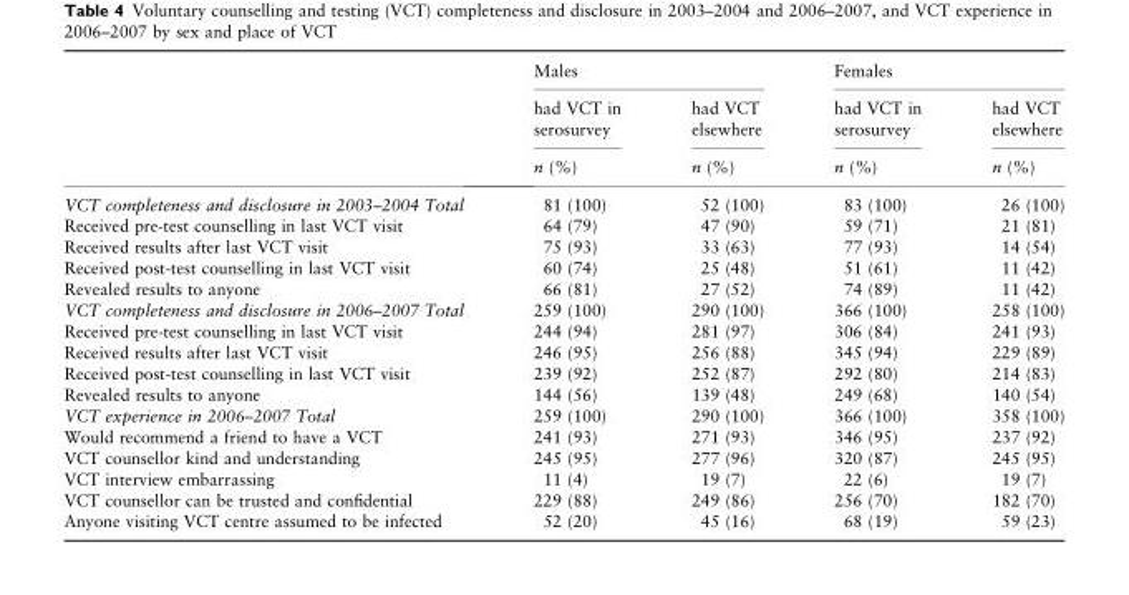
<table><thead><tr><td rowspan="3"></td><td colspan="2">Males</td><td colspan="2">Females</td></tr><tr><td rowspan="2">had VCT in serosurvey n (%)</td><td rowspan="2">had VCT elsewhere n (%)</td><td rowspan="2">had VCT in serosurvey n (%)</td><td rowspan="2">had VCT elsewhere n (%)</td></tr><tr></tr></thead><tbody><tr><td>VCT completeness and disclosure in 2003–2004 Total</td><td>81 (100)</td><td>52 (100)</td><td>83 (100)</td><td>26 (100)</td></tr><tr><td>Received pre-test counselling in last VCT visit</td><td>64 (79)</td><td>47 (90)</td><td>59 (71)</td><td>21 (81)</td></tr><tr><td>Received results after last VCT visit</td><td>75 (93)</td><td>33 (63)</td><td>77 (93)</td><td>14 (54)</td></tr><tr><td>Received post-test counselling in last VCT visit</td><td>60 (74)</td><td>25 (48)</td><td>51 (61)</td><td>11 (42)</td></tr><tr><td>Revealed results to anyone</td><td>66 (81)</td><td>27 (52)</td><td>74 (89)</td><td>11 (42)</td></tr><tr><td>VCT completeness and disclosure in 2006–2007 Total</td><td>259 (100)</td><td>290 (100)</td><td>366 (100)</td><td>258 (100)</td></tr><tr><td>Received pre-test counselling in last VCT visit</td><td>244 (94)</td><td>281 (97)</td><td>306 (84)</td><td>241 (93)</td></tr><tr><td>Received results after last VCT visit</td><td>246 (95)</td><td>256 (88)</td><td>345 (94)</td><td>229 (89)</td></tr><tr><td>Received post-test counselling in last VCT visit</td><td>239 (92)</td><td>252 (87)</td><td>292 (80)</td><td>214 (83)</td></tr><tr><td>Revealed results to anyone</td><td>144 (56)</td><td>139 (48)</td><td>249 (68)</td><td>140 (54)</td></tr><tr><td>VCT experience in 2006–2007 Total</td><td>259 (100)</td><td>290 (100)</td><td>366 (100)</td><td>358 (100)</td></tr><tr><td>Would recommend a friend to have a VCT</td><td>241 (93)</td><td>271 (93)</td><td>346 (95)</td><td>237 (92)</td></tr><tr><td>VCT counsellor kind and understanding</td><td>245 (95)</td><td>277 (96)</td><td>320 (87)</td><td>245 (95)</td></tr><tr><td>VCT interview embarrassing</td><td>11 (4)</td><td>19 (7)</td><td>22 (6)</td><td>19 (7)</td></tr><tr><td>VCT counsellor can be trusted and confidential</td><td>229 (88)</td><td>249 (86)</td><td>256 (70)</td><td>182 (70)</td></tr><tr><td>Anyone visiting VCT centre assumed to be infected</td><td>52 (20)</td><td>45 (16)</td><td>68 (19)</td><td>59 (23)</td></tr></tbody></table>